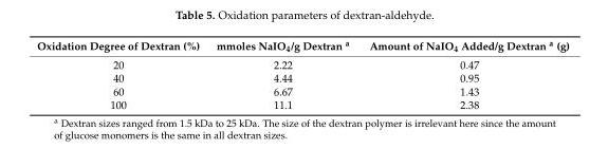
<table><thead><tr><td>Oxidation Degree of Dextran (%)</td><td>mmoles NaIO<sub>4</sub>/g Dextran <sup>a</sup></td><td>Amount of NaIO<sub>4</sub> Added/g Dextran <sup>a</sup> (g)</td></tr></thead><tbody><tr><td>20</td><td>2.22</td><td>0.47</td></tr><tr><td>40</td><td>4.44</td><td>0.95</td></tr><tr><td>60</td><td>6.67</td><td>1.43</td></tr><tr><td>100</td><td>11.1</td><td>2.38</td></tr></tbody></table>